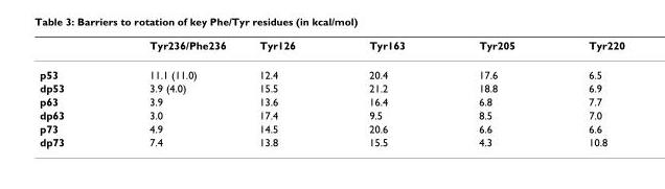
<table><thead><tr><td></td><td>Tyr236/Phe236</td><td>Tyr126</td><td>Tyr163</td><td>Tyr205</td><td>Tyr220</td></tr></thead><tbody><tr><td>p53</td><td>11.1 (11.0)</td><td>12.4</td><td>20.4</td><td>17.6</td><td>6.5</td></tr><tr><td>dp53</td><td>3.9 (4.0)</td><td>15.5</td><td>21.2</td><td>18.8</td><td>6.9</td></tr><tr><td>p63</td><td>3.9</td><td>13.6</td><td>16.4</td><td>6.8</td><td>7.7</td></tr><tr><td>dp63</td><td>3.0</td><td>17.4</td><td>9.5</td><td>8.5</td><td>7.0</td></tr><tr><td>p73</td><td>4.9</td><td>14.5</td><td>20.6</td><td>6.6</td><td>6.6</td></tr><tr><td>dp73</td><td>7.4</td><td>13.8</td><td>15.5</td><td>4.3</td><td>10.8</td></tr></tbody></table>